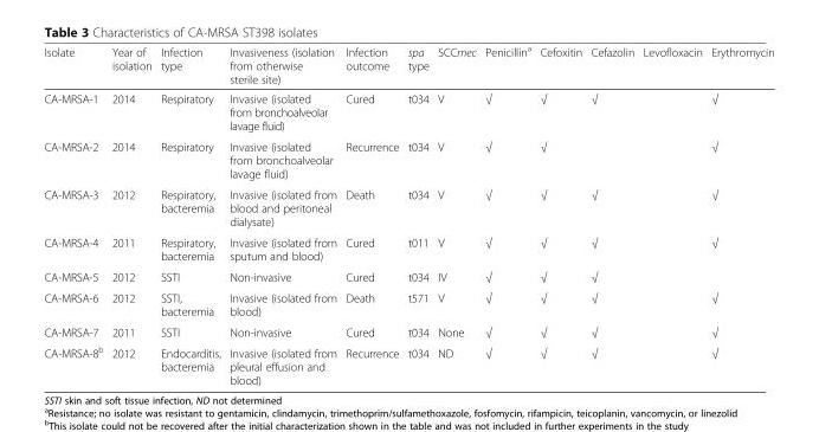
<table><thead><tr><td>Isolate</td><td>Year of isolation</td><td>Infection type</td><td>Invasiveness (isolation from otherwise sterile site)</td><td>Infection outcome</td><td>spa type</td><td>SCCmec</td><td>Penicillin<sup>a</sup></td><td>Cefoxitin</td><td>Cefazolin</td><td>Levofloxacin</td><td>Erythromycin</td></tr></thead><tbody><tr><td>CA-MRSA-1</td><td>2014</td><td>Respiratory</td><td>Invasive (isolated from bronchoalveolar lavage fluid)</td><td>Cured</td><td>t034</td><td>V</td><td>√</td><td>√</td><td>√</td><td></td><td>√</td></tr><tr><td>CA-MRSA-2</td><td>2014</td><td>Respiratory</td><td>Invasive (isolated from bronchoalveolar lavage fluid)</td><td>Recurrence</td><td>t034</td><td>V</td><td>√</td><td>√</td><td></td><td></td><td>√</td></tr><tr><td>CA-MRSA-3</td><td>2012</td><td>Respiratory, bacteremia</td><td>Invasive (isolated from blood and peritoneal dialysate)</td><td>Death</td><td>t034</td><td>V</td><td>√</td><td>√</td><td>√</td><td></td><td>√</td></tr><tr><td>CA-MRSA-4</td><td>2011</td><td>Respiratory, bacteremia</td><td>Invasive (isolated from sputum and blood)</td><td>Cured</td><td>t011</td><td>V</td><td>√</td><td>√</td><td>√</td><td></td><td>√</td></tr><tr><td>CA-MRSA-5</td><td>2012</td><td>SSTI</td><td>Non-invasive</td><td>Cured</td><td>t034</td><td>IV</td><td>√</td><td>√</td><td>√</td><td></td><td></td></tr><tr><td>CA-MRSA-6</td><td>2012</td><td>SSTI, bacteremia</td><td>Invasive (isolated from blood)</td><td>Death</td><td>t571</td><td>V</td><td>√</td><td>√</td><td>√</td><td></td><td>√</td></tr><tr><td>CA-MRSA-7</td><td>2011</td><td>SSTI</td><td>Non-invasive</td><td>Cured</td><td>t034</td><td>None</td><td>√</td><td>√</td><td>√</td><td></td><td>√</td></tr><tr><td>CA-MRSA-8<sup>b</sup></td><td>2012</td><td>Endocarditis, bacteremia</td><td>Invasive (isolated from pleural effusion and blood)</td><td>Recurrence</td><td>t034</td><td>ND</td><td>√</td><td>√</td><td>√</td><td></td><td>√</td></tr></tbody></table>